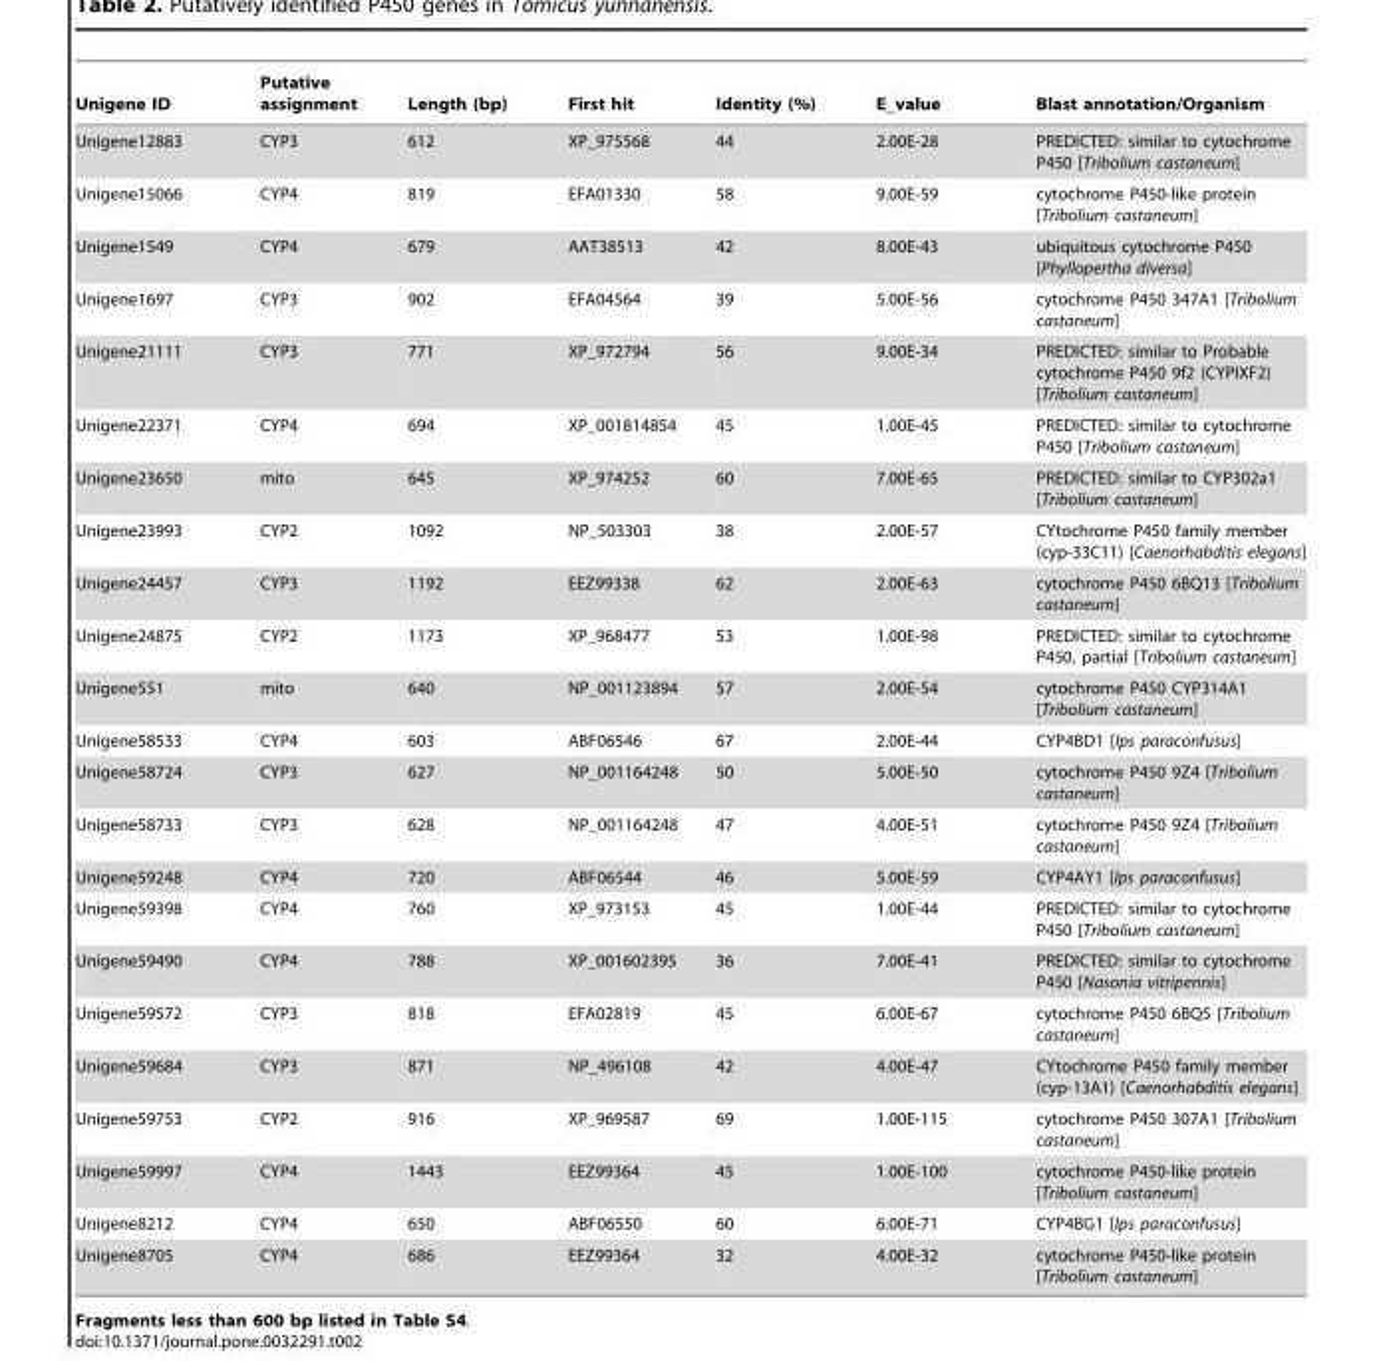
<table><thead><tr><td>Unigene ID</td><td>Putative assignment</td><td>Length (bp)</td><td>First hit</td><td>Identity (%)</td><td>E_value</td><td>Blast annotation/Organism</td></tr></thead><tbody><tr><td>Unigene12883</td><td>CYP3</td><td>612</td><td>XP_975568</td><td>44</td><td>2.00E-28</td><td>PREDICTED: similar to cytochrome P450 [Tribolium castaneum]</td></tr><tr><td>Unigene15066</td><td>CYP4</td><td>819</td><td>EFA01330</td><td>58</td><td>9.00E-59</td><td>cytochrome P450-like protein [Tribolium castaneum]</td></tr><tr><td>Unigene1549</td><td>CYP4</td><td>679</td><td>AAT38513</td><td>42</td><td>8.00E-43</td><td>ubiquitous cytochrome P450 [Phyllopertha diversa]</td></tr><tr><td>Unigene1697</td><td>CYP3</td><td>902</td><td>EFA04564</td><td>39</td><td>5.00E-56</td><td>cytochrome P450 347A1 [Tribolium castaneum]</td></tr><tr><td>Unigene21111</td><td>CYP3</td><td>771</td><td>XP_972794</td><td>56</td><td>9.00E-34</td><td>PREDICTED: similar to Probable cytochrome P450 9f2 (CYPIXF2) [Tribolium castaneum]</td></tr><tr><td>Unigene22371</td><td>CYP4</td><td>694</td><td>XP_001814854</td><td>45</td><td>1.00E-45</td><td>PREDICTED: similar to cytochrome P450 [Tribolium castaneum]</td></tr><tr><td>Unigene23650</td><td>mito</td><td>645</td><td>XP_974252</td><td>60</td><td>7.00E-65</td><td>PREDICTED: similar to CYP302a1 [Tribolium castaneum]</td></tr><tr><td>Unigene23993</td><td>CYP2</td><td>1092</td><td>NP_503303</td><td>38</td><td>2.00E-57</td><td>CYtochrome P450 family member (cyp-33C11) [Caenorhabditis elegans]</td></tr><tr><td>Unigene24457</td><td>CYP3</td><td>1192</td><td>EEZ99338</td><td>62</td><td>2.00E-63</td><td>cytochrome P450 6BQ13 [Tribolium castaneum]</td></tr><tr><td>Unigene24875</td><td>CYP2</td><td>1173</td><td>XP_968477</td><td>53</td><td>1.00E-98</td><td>PREDICTED: similar to cytochrome P450, partial [Tribolium castaneum]</td></tr><tr><td>Unigene551</td><td>mito</td><td>640</td><td>NP_001123894</td><td>57</td><td>2.00E-54</td><td>cytochrome P450 CYP314A1 [Tribolium castaneum]</td></tr><tr><td>Unigene58533</td><td>CYP4</td><td>603</td><td>ABF06546</td><td>67</td><td>2.00E-44</td><td>CYP4BD1 [Ips paraconfusus]</td></tr><tr><td>Unigene58724</td><td>CYP3</td><td>627</td><td>NP_001164248</td><td>50</td><td>5.00E-50</td><td>cytochrome P450 9Z4 [Tribolium castaneum]</td></tr><tr><td>Unigene58733</td><td>CYP3</td><td>628</td><td>NP_001164248</td><td>47</td><td>4.00E-51</td><td>cytochrome P450 9Z4 [Tribolium castaneum]</td></tr><tr><td>Unigene59248</td><td>CYP4</td><td>720</td><td>ABF06544</td><td>46</td><td>5.00E-59</td><td>CYP4AY1 [Ips paraconfusus]</td></tr><tr><td>Unigene59398</td><td>CYP4</td><td>760</td><td>XP_973153</td><td>45</td><td>1.00E-44</td><td>PREDICTED: similar to cytochrome P450 [Tribolium castaneum]</td></tr><tr><td>Unigene59490</td><td>CYP4</td><td>788</td><td>XP_001602395</td><td>36</td><td>7.00E-41</td><td>PREDICTED: similar to cytochrome P450 [Nasonia vitripennis]</td></tr><tr><td>Unigene59572</td><td>CYP3</td><td>818</td><td>EFA02819</td><td>45</td><td>6.00E-67</td><td>cytochrome P450 6BQ5 [Tribolium castaneum]</td></tr><tr><td>Unigene59684</td><td>CYP3</td><td>871</td><td>NP_496108</td><td>42</td><td>4.00E-47</td><td>CYtochrome P450 family member (cyp-13A1) [Caenorhabditis elegans]</td></tr><tr><td>Unigene59753</td><td>CYP2</td><td>916</td><td>XP_969587</td><td>69</td><td>1.00E-115</td><td>cytochrome P450 307A1 [Tribolium castaneum]</td></tr><tr><td>Unigene59997</td><td>CYP4</td><td>1443</td><td>EEZ99364</td><td>45</td><td>1.00E-100</td><td>cytochrome P450-like protein [Tribolium castaneum]</td></tr><tr><td>Unigene8212</td><td>CYP4</td><td>650</td><td>ABF06550</td><td>60</td><td>6.00E-71</td><td>CYP4BG1 [Ips paraconfusus]</td></tr><tr><td>Unigene8705</td><td>CYP4</td><td>686</td><td>EEZ99364</td><td>32</td><td>4.00E-32</td><td>cytochrome P450-like protein [Tribolium castaneum]</td></tr></tbody></table>